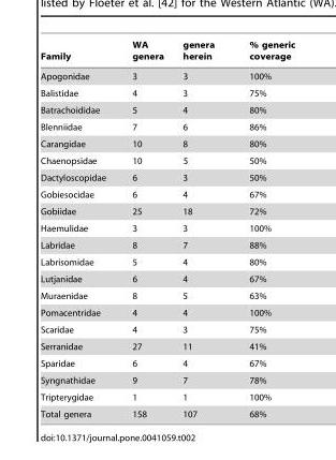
<table><thead><tr><td>Family</td><td>WA genera</td><td>genera herein</td><td>% generic coverage</td></tr></thead><tbody><tr><td>Apogonidae</td><td>3</td><td>3</td><td>100%</td></tr><tr><td>Balistidae</td><td>4</td><td>3</td><td>75%</td></tr><tr><td>Batrachoididae</td><td>5</td><td>4</td><td>80%</td></tr><tr><td>Blenniidae</td><td>7</td><td>6</td><td>86%</td></tr><tr><td>Carangidae</td><td>10</td><td>8</td><td>80%</td></tr><tr><td>Chaenopsidae</td><td>10</td><td>5</td><td>50%</td></tr><tr><td>Dactyloscopidae</td><td>6</td><td>3</td><td>50%</td></tr><tr><td>Gobiesocidae</td><td>6</td><td>4</td><td>67%</td></tr><tr><td>Gobiidae</td><td>25</td><td>18</td><td>72%</td></tr><tr><td>Haemulidae</td><td>3</td><td>3</td><td>100%</td></tr><tr><td>Labridae</td><td>8</td><td>7</td><td>88%</td></tr><tr><td>Labrisomidae</td><td>5</td><td>4</td><td>80%</td></tr><tr><td>Lutjanidae</td><td>6</td><td>4</td><td>67%</td></tr><tr><td>Muraenidae</td><td>8</td><td>5</td><td>63%</td></tr><tr><td>Pomacentridae</td><td>4</td><td>4</td><td>100%</td></tr><tr><td>Scaridae</td><td>4</td><td>3</td><td>75%</td></tr><tr><td>Serranidae</td><td>27</td><td>11</td><td>41%</td></tr><tr><td>Sparidae</td><td>6</td><td>4</td><td>67%</td></tr><tr><td>Syngnathidae</td><td>9</td><td>7</td><td>78%</td></tr><tr><td>Tripterygidae</td><td>1</td><td>1</td><td>100%</td></tr><tr><td>Total genera</td><td>158</td><td>107</td><td>68%</td></tr></tbody></table>